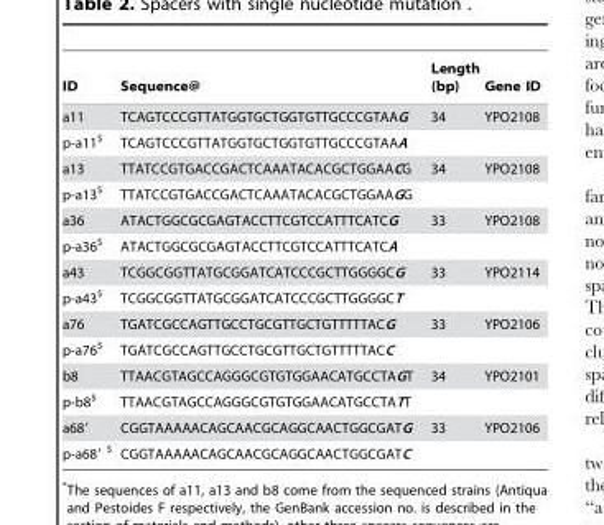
<table><thead><tr><td>ID</td><td>Sequence@</td><td>Length (bp)</td><td>Gene ID</td></tr></thead><tbody><tr><td>a11</td><td>TCAGTCCCGTTATGGTGCTGGTGTTGCCCGTAAG</td><td>34</td><td>YPO2108</td></tr><tr><td>p-a11$</td><td>TCAGTCCCGTTATGGTGCTGGTGTTGCCCGTAAA</td><td></td><td></td></tr><tr><td>a13</td><td>TTATCCGTGACCGACTCAAATACACGCTGGAACG</td><td>34</td><td>YPO2108</td></tr><tr><td>p-a13$</td><td>TTATCCGTGACCGACTCAAATACACGCTGGAAGG</td><td></td><td></td></tr><tr><td>a36</td><td>ATACTGGCGCGAGTACCTTCGTCCATTTCATCG</td><td>33</td><td>YPO2108</td></tr><tr><td>p-a36$</td><td>ATACTGGCGCGAGTACCTTCGTCCATTTCATCA</td><td></td><td></td></tr><tr><td>a43</td><td>TCGGCGGTTATGCGGATCATCCCGCTTGGGGCG</td><td>33</td><td>YPO2114</td></tr><tr><td>p-a43$</td><td>TCGGCGGTTATGCGGATCATCCCGCTTGGGGCT</td><td></td><td></td></tr><tr><td>a76</td><td>TGATCGCCAGTTGCCTGCGTTGCTGTTTTTACG</td><td>33</td><td>YPO2106</td></tr><tr><td>p-a76$</td><td>TGATCGCCAGTTGCCTGCGTTGCTGTTTTTACC</td><td></td><td></td></tr><tr><td>b8</td><td>TTAACGTAGCCAGGGCGTGTGGAACATGCCTAGT</td><td>34</td><td>YPO2101</td></tr><tr><td>p-b8$</td><td>TTAACGTAGCCAGGGCGTGTGGAACATGCCTATT</td><td></td><td></td></tr><tr><td>a68′</td><td>CGGTAAAAACAGCAACGCAGGCAACTGGCGATG</td><td>33</td><td>YPO2106</td></tr><tr><td>p-a68′ $</td><td>CGGTAAAAACAGCAACGCAGGCAACTGGCGATC</td><td></td><td></td></tr></tbody></table>